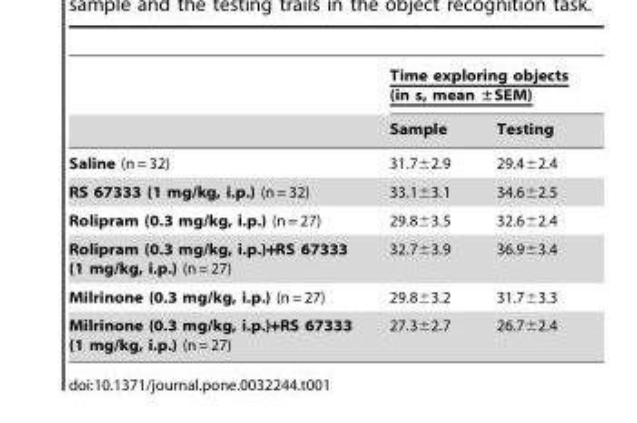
<table><thead><tr><td rowspan="2"></td><td colspan="2">Time exploring objects (in s, mean ±SEM)</td></tr><tr><td>Sample</td><td>Testing</td></tr></thead><tbody><tr><td>Saline (n = 32)</td><td>31.7±2.9</td><td>29.4±2.4</td></tr><tr><td>RS 67333 (1 mg/kg, i.p.) (n = 32)</td><td>33.1±3.1</td><td>34.6±2.5</td></tr><tr><td>Rolipram (0.3 mg/kg, i.p.) (n = 27)</td><td>29.8±3.5</td><td>32.6±2.4</td></tr><tr><td>Rolipram (0.3 mg/kg, i.p.)+RS 67333 (1 mg/kg, i.p.) (n = 27)</td><td>32.7±3.9</td><td>36.9±3.4</td></tr><tr><td>Milrinone (0.3 mg/kg, i.p.) (n = 27)</td><td>29.8±3.2</td><td>31.7±3.3</td></tr><tr><td>Milrinone (0.3 mg/kg, i.p.)+RS 67333 (1 mg/kg, i.p.) (n = 27)</td><td>27.3±2.7</td><td>26.7±2.4</td></tr></tbody></table>